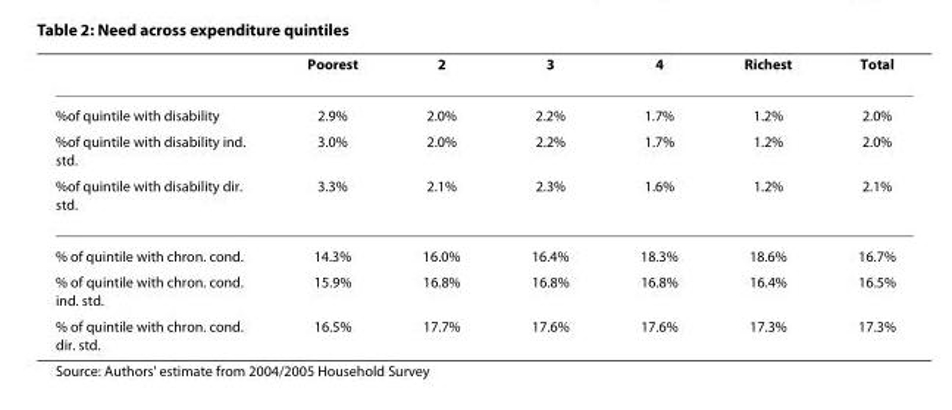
<table><thead><tr><td></td><td>Poorest</td><td>2</td><td>3</td><td>4</td><td>Richest</td><td>Total</td></tr></thead><tbody><tr><td>%of quintile with disability</td><td>2.9%</td><td>2.0%</td><td>2.2%</td><td>1.7%</td><td>1.2%</td><td>2.0%</td></tr><tr><td>%of quintile with disability ind. std.</td><td>3.0%</td><td>2.0%</td><td>2.2%</td><td>1.7%</td><td>1.2%</td><td>2.0%</td></tr><tr><td>%of quintile with disability dir. std.</td><td>3.3%</td><td>2.1%</td><td>2.3%</td><td>1.6%</td><td>1.2%</td><td>2.1%</td></tr><tr><td>% of quintile with chron. cond.</td><td>14.3%</td><td>16.0%</td><td>16.4%</td><td>18.3%</td><td>18.6%</td><td>16.7%</td></tr><tr><td>% of quintile with chron. cond. ind. std.</td><td>15.9%</td><td>16.8%</td><td>16.8%</td><td>16.8%</td><td>16.4%</td><td>16.5%</td></tr><tr><td>% of quintile with chron. cond. dir. std.</td><td>16.5%</td><td>17.7%</td><td>17.6%</td><td>17.6%</td><td>17.3%</td><td>17.3%</td></tr></tbody></table>